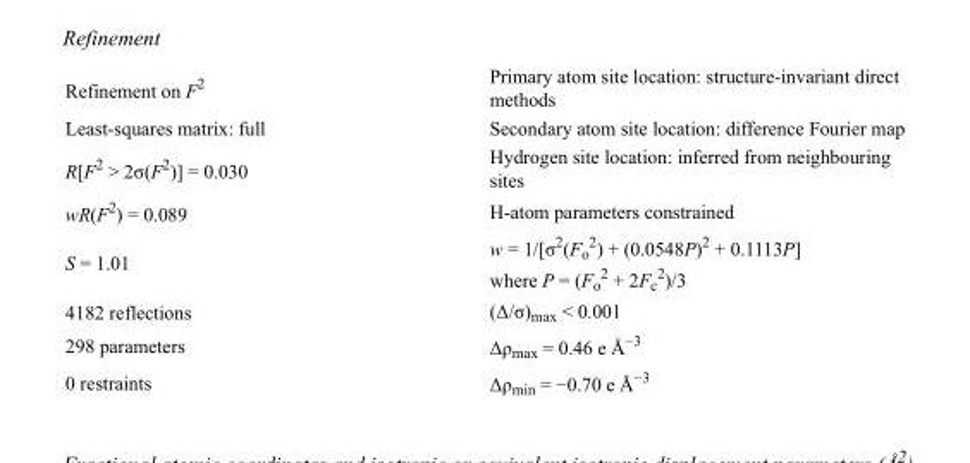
<table><tbody><tr><td>Refinement on F<sup>2</sup></td><td>Primary atom site location: structure-invariant direct methods</td></tr><tr><td>Least-squares matrix: full</td><td>Secondary atom site location: difference Fourier map</td></tr><tr><td>R[F<sup>2</sup> &gt; 2σ(F<sup>2</sup>)] = 0.030</td><td>Hydrogen site location: inferred from neighbouring sites</td></tr><tr><td>wR(F<sup>2</sup>) = 0.089</td><td>H-atom parameters constrained</td></tr><tr><td>S = 1.01</td><td>w = 1/[σ<sup>2</sup>(F<sub>o</sub> <sup>2</sup>) + (0.0548P)<sup>2</sup> + 0.1113P] where P = (F<sub>o</sub> <sup>2</sup> + 2F<sub>c</sub> <sup>2</sup>)/3</td></tr><tr><td>4182 reflections</td><td>(Δ/σ)<sub>max</sub> &lt; 0.001</td></tr><tr><td>298 parameters</td><td>Δρ<sub>max</sub> = 0.46 e Å<sup>−3</sup></td></tr><tr><td>0 restraints</td><td>Δρ<sub>min</sub> = −0.70 e Å<sup>−3</sup></td></tr></tbody></table>